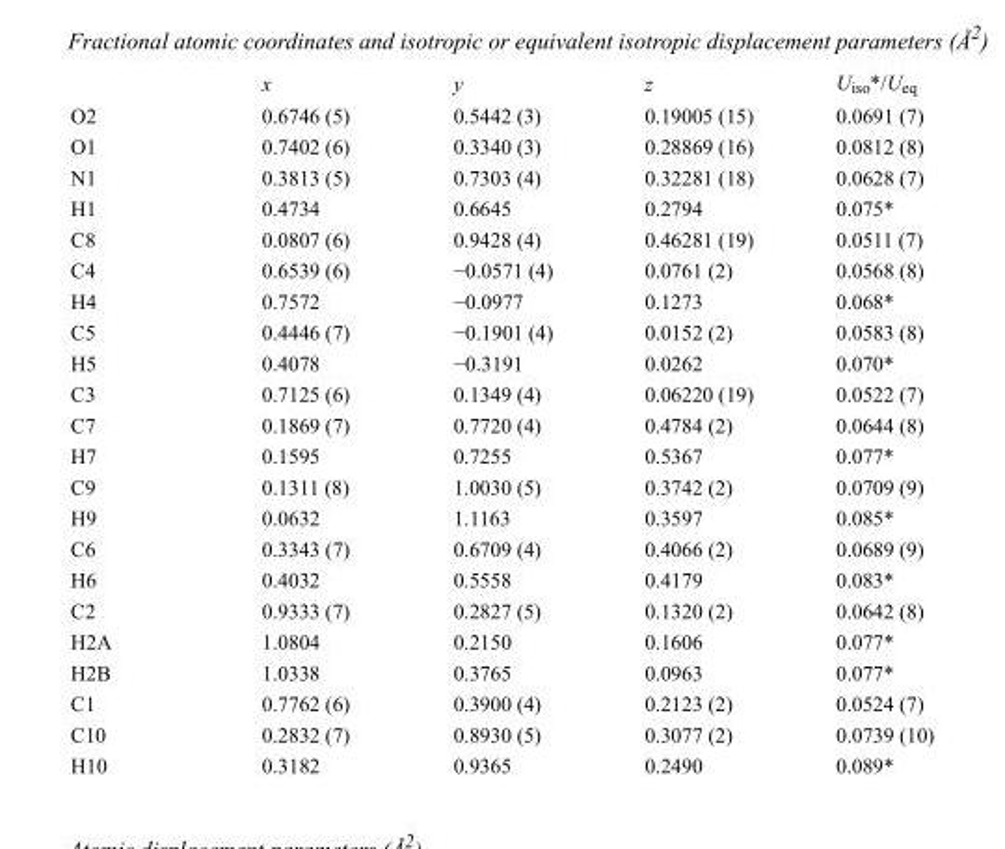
<table><thead><tr><td></td><td>x</td><td>y</td><td>z</td><td>U<sub>iso</sub>*/U<sub>eq</sub></td></tr></thead><tbody><tr><td>O2</td><td>0.6746 (5)</td><td>0.5442 (3)</td><td>0.19005 (15)</td><td>0.0691 (7)</td></tr><tr><td>O1</td><td>0.7402 (6)</td><td>0.3340 (3)</td><td>0.28869 (16)</td><td>0.0812 (8)</td></tr><tr><td>N1</td><td>0.3813 (5)</td><td>0.7303 (4)</td><td>0.32281 (18)</td><td>0.0628 (7)</td></tr><tr><td>H1</td><td>0.4734</td><td>0.6645</td><td>0.2794</td><td>0.075*</td></tr><tr><td>C8</td><td>0.0807 (6)</td><td>0.9428 (4)</td><td>0.46281 (19)</td><td>0.0511 (7)</td></tr><tr><td>C4</td><td>0.6539 (6)</td><td>−0.0571 (4)</td><td>0.0761 (2)</td><td>0.0568 (8)</td></tr><tr><td>H4</td><td>0.7572</td><td>−0.0977</td><td>0.1273</td><td>0.068*</td></tr><tr><td>C5</td><td>0.4446 (7)</td><td>−0.1901 (4)</td><td>0.0152 (2)</td><td>0.0583 (8)</td></tr><tr><td>H5</td><td>0.4078</td><td>−0.3191</td><td>0.0262</td><td>0.070*</td></tr><tr><td>C3</td><td>0.7125 (6)</td><td>0.1349 (4)</td><td>0.06220 (19)</td><td>0.0522 (7)</td></tr><tr><td>C7</td><td>0.1869 (7)</td><td>0.7720 (4)</td><td>0.4784 (2)</td><td>0.0644 (8)</td></tr><tr><td>H7</td><td>0.1595</td><td>0.7255</td><td>0.5367</td><td>0.077*</td></tr><tr><td>C9</td><td>0.1311 (8)</td><td>1.0030 (5)</td><td>0.3742 (2)</td><td>0.0709 (9)</td></tr><tr><td>H9</td><td>0.0632</td><td>1.1163</td><td>0.3597</td><td>0.085*</td></tr><tr><td>C6</td><td>0.3343 (7)</td><td>0.6709 (4)</td><td>0.4066 (2)</td><td>0.0689 (9)</td></tr><tr><td>H6</td><td>0.4032</td><td>0.5558</td><td>0.4179</td><td>0.083*</td></tr><tr><td>C2</td><td>0.9333 (7)</td><td>0.2827 (5)</td><td>0.1320 (2)</td><td>0.0642 (8)</td></tr><tr><td>H2A</td><td>1.0804</td><td>0.2150</td><td>0.1606</td><td>0.077*</td></tr><tr><td>H2B</td><td>1.0338</td><td>0.3765</td><td>0.0963</td><td>0.077*</td></tr><tr><td>C1</td><td>0.7762 (6)</td><td>0.3900 (4)</td><td>0.2123 (2)</td><td>0.0524 (7)</td></tr><tr><td>C10</td><td>0.2832 (7)</td><td>0.8930 (5)</td><td>0.3077 (2)</td><td>0.0739 (10)</td></tr><tr><td>H10</td><td>0.3182</td><td>0.9365</td><td>0.2490</td><td>0.089*</td></tr></tbody></table>